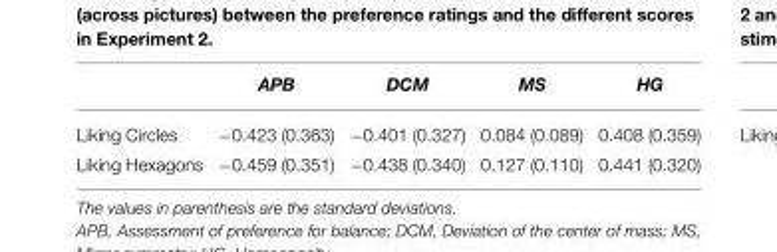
<table><thead><tr><td></td><td>APB</td><td>DCM</td><td>MS</td><td>HG</td></tr></thead><tbody><tr><td>Liking Circles</td><td>−0.423 (0.363)</td><td>−0.401 (0.327)</td><td>0.084 (0.089)</td><td>0.408 (0.359)</td></tr><tr><td>Liking Hexagons</td><td>−0.459 (0.351)</td><td>−0.438 (0.340)</td><td>0.127 (0.110)</td><td>0.441 (0.320)</td></tr></tbody></table>